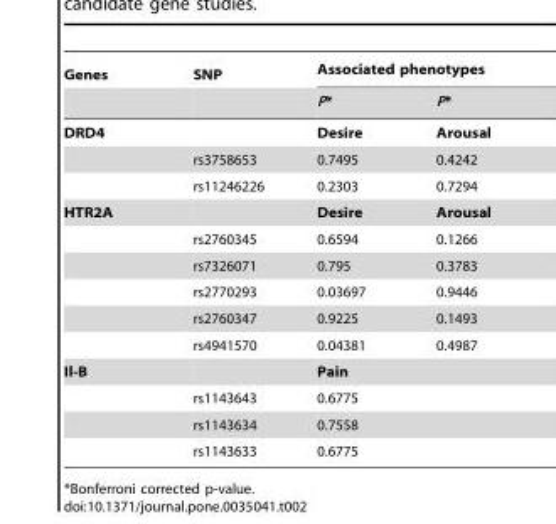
<table><thead><tr><td rowspan="2">Genes</td><td rowspan="2">SNP</td><td colspan="2">Associated phenotypes</td></tr><tr><td>P*</td><td>P*</td></tr></thead><tbody><tr><td rowspan="3">DRD4</td><td></td><td>Desire</td><td>Arousal</td></tr><tr><td>rs3758653</td><td>0.7495</td><td>0.4242</td></tr><tr><td>rs11246226</td><td>0.2303</td><td>0.7294</td></tr><tr><td rowspan="6">HTR2A</td><td></td><td>Desire</td><td>Arousal</td></tr><tr><td>rs2760345</td><td>0.6594</td><td>0.1266</td></tr><tr><td>rs7326071</td><td>0.795</td><td>0.3783</td></tr><tr><td>rs2770293</td><td>0.03697</td><td>0.9446</td></tr><tr><td>rs2760347</td><td>0.9225</td><td>0.1493</td></tr><tr><td>rs4941570</td><td>0.04381</td><td>0.4987</td></tr><tr><td rowspan="4">Il-B</td><td></td><td>Pain</td><td></td></tr><tr><td>rs1143643</td><td>0.6775</td><td></td></tr><tr><td>rs1143634</td><td>0.7558</td><td></td></tr><tr><td>rs1143633</td><td>0.6775</td><td></td></tr></tbody></table>